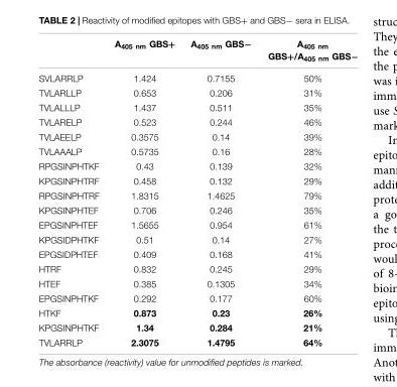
<table><thead><tr><td></td><td>A<sub>405 nm</sub> GBS+</td><td>A<sub>405 nm</sub> GBS−</td><td>A<sub>405 nm</sub> GBS+/A<sub>405 nm</sub> GBS−</td></tr></thead><tbody><tr><td>SVLARRLP</td><td>1.424</td><td>0.7155</td><td>50%</td></tr><tr><td>TVLARLLP</td><td>0.653</td><td>0.206</td><td>31%</td></tr><tr><td>TVLALLLP</td><td>1.437</td><td>0.511</td><td>35%</td></tr><tr><td>TVLARELP</td><td>0.523</td><td>0.244</td><td>46%</td></tr><tr><td>TVLAEELP</td><td>0.3575</td><td>0.14</td><td>39%</td></tr><tr><td>TVLAAALP</td><td>0.5735</td><td>0.16</td><td>28%</td></tr><tr><td>RPGSINPHTKF</td><td>0.43</td><td>0.139</td><td>32%</td></tr><tr><td>KPGSINPHTRF</td><td>0.458</td><td>0.132</td><td>29%</td></tr><tr><td>RPGSINPHTRF</td><td>1.8315</td><td>1.4625</td><td>79%</td></tr><tr><td>KPGSINPHTEF</td><td>0.706</td><td>0.246</td><td>35%</td></tr><tr><td>EPGSINPHTEF</td><td>1.5655</td><td>0.954</td><td>61%</td></tr><tr><td>KPGSIDPHTKF</td><td>0.51</td><td>0.14</td><td>27%</td></tr><tr><td>EPGSIDPHTEF</td><td>0.409</td><td>0.168</td><td>41%</td></tr><tr><td>HTRF</td><td>0.832</td><td>0.245</td><td>29%</td></tr><tr><td>HTEF</td><td>0.385</td><td>0.1305</td><td>34%</td></tr><tr><td>EPGSINPHTKF</td><td>0.292</td><td>0.177</td><td>60%</td></tr><tr><td>HTKF</td><td>0.873</td><td>0.23</td><td>26%</td></tr><tr><td>KPGSINPHTKF</td><td>1.34</td><td>0.284</td><td>21%</td></tr><tr><td>TVLARRLP</td><td>2.3075</td><td>1.4795</td><td>64%</td></tr></tbody></table>